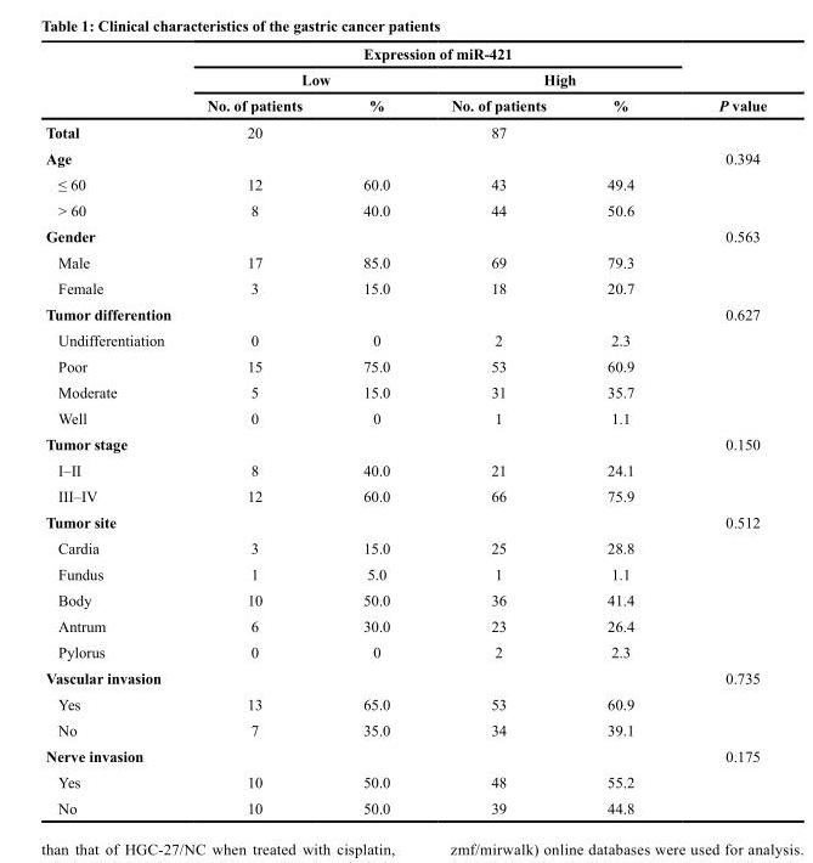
<table><thead><tr><td rowspan="3"></td><td colspan="4">Expression of miR-421</td><td rowspan="3">P value</td></tr><tr><td colspan="2">Low</td><td colspan="2">High</td></tr><tr><td>No. of patients</td><td>%</td><td>No. of patients</td><td>%</td></tr></thead><tbody><tr><td>Total</td><td>20</td><td></td><td>87</td><td></td><td></td></tr><tr><td>Age</td><td></td><td></td><td></td><td></td><td>0.394</td></tr><tr><td>≤ 60</td><td>12</td><td>60.0</td><td>43</td><td>49.4</td><td></td></tr><tr><td>&gt; 60</td><td>8</td><td>40.0</td><td>44</td><td>50.6</td><td></td></tr><tr><td>Gender</td><td></td><td></td><td></td><td></td><td>0.563</td></tr><tr><td>Male</td><td>17</td><td>85.0</td><td>69</td><td>79.3</td><td></td></tr><tr><td>Female</td><td>3</td><td>15.0</td><td>18</td><td>20.7</td><td></td></tr><tr><td>Tumor differention</td><td></td><td></td><td></td><td></td><td>0.627</td></tr><tr><td>Undifferentiation</td><td>0</td><td>0</td><td>2</td><td>2.3</td><td></td></tr><tr><td>Poor</td><td>15</td><td>75.0</td><td>53</td><td>60.9</td><td></td></tr><tr><td>Moderate</td><td>5</td><td>15.0</td><td>31</td><td>35.7</td><td></td></tr><tr><td>Well</td><td>0</td><td>0</td><td>1</td><td>1.1</td><td></td></tr><tr><td>Tumor stage</td><td></td><td></td><td></td><td></td><td>0.150</td></tr><tr><td>I–II</td><td>8</td><td>40.0</td><td>21</td><td>24.1</td><td></td></tr><tr><td>III–IV</td><td>12</td><td>60.0</td><td>66</td><td>75.9</td><td></td></tr><tr><td>Tumor site</td><td></td><td></td><td></td><td></td><td>0.512</td></tr><tr><td>Cardia</td><td>3</td><td>15.0</td><td>25</td><td>28.8</td><td></td></tr><tr><td>Fundus</td><td>1</td><td>5.0</td><td>1</td><td>1.1</td><td></td></tr><tr><td>Body</td><td>10</td><td>50.0</td><td>36</td><td>41.4</td><td></td></tr><tr><td>Antrum</td><td>6</td><td>30.0</td><td>23</td><td>26.4</td><td></td></tr><tr><td>Pylorus</td><td>0</td><td>0</td><td>2</td><td>2.3</td><td></td></tr><tr><td>Vascular invasion</td><td></td><td></td><td></td><td></td><td>0.735</td></tr><tr><td>Yes</td><td>13</td><td>65.0</td><td>53</td><td>60.9</td><td></td></tr><tr><td>No</td><td>7</td><td>35.0</td><td>34</td><td>39.1</td><td></td></tr><tr><td>Nerve invasion</td><td></td><td></td><td></td><td></td><td>0.175</td></tr><tr><td>Yes</td><td>10</td><td>50.0</td><td>48</td><td>55.2</td><td></td></tr><tr><td>No</td><td>10</td><td>50.0</td><td>39</td><td>44.8</td><td></td></tr></tbody></table>